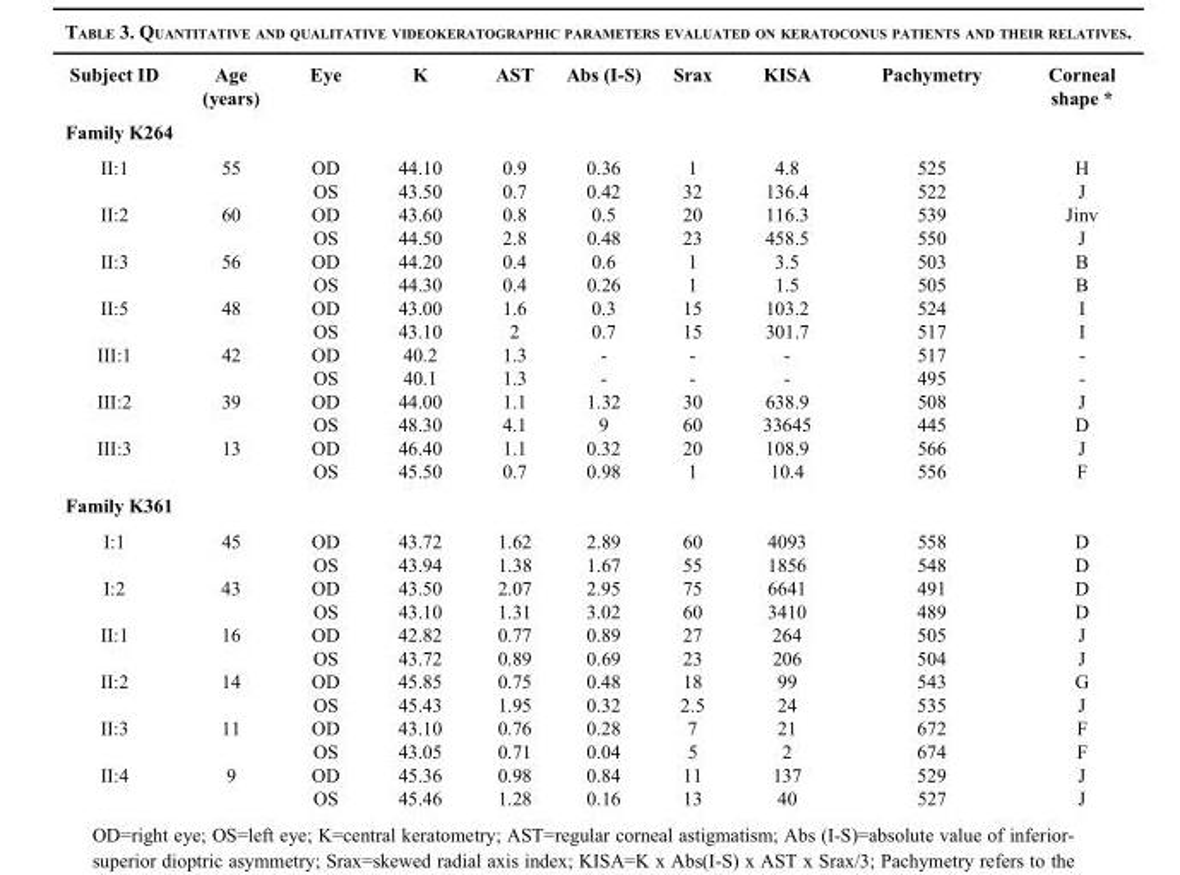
<table><thead><tr><td>Subject ID</td><td>Age (years)</td><td>Eye</td><td>K</td><td>AST</td><td>Abs (I-S)</td><td>Srax</td><td>KISA</td><td>Pachymetry</td><td>Corneal shape *</td></tr></thead><tbody><tr><td colspan="10">Family K264</td></tr><tr><td rowspan="2">II:1</td><td>55</td><td>OD</td><td>44.10</td><td>0.9</td><td>0.36</td><td>1</td><td>4.8</td><td>525</td><td>H</td></tr><tr><td></td><td>OS</td><td>43.50</td><td>0.7</td><td>0.42</td><td>32</td><td>136.4</td><td>522</td><td>J</td></tr><tr><td rowspan="2">II:2</td><td>60</td><td>OD</td><td>43.60</td><td>0.8</td><td>0.5</td><td>20</td><td>116.3</td><td>539</td><td>Jinv</td></tr><tr><td></td><td>OS</td><td>44.50</td><td>2.8</td><td>0.48</td><td>23</td><td>458.5</td><td>550</td><td>J</td></tr><tr><td rowspan="2">II:3</td><td>56</td><td>OD</td><td>44.20</td><td>0.4</td><td>0.6</td><td>1</td><td>3.5</td><td>503</td><td>B</td></tr><tr><td></td><td>OS</td><td>44.30</td><td>0.4</td><td>0.26</td><td>1</td><td>1.5</td><td>505</td><td>B</td></tr><tr><td rowspan="2">II:5</td><td>48</td><td>OD</td><td>43.00</td><td>1.6</td><td>0.3</td><td>15</td><td>103.2</td><td>524</td><td>I</td></tr><tr><td></td><td>OS</td><td>43.10</td><td>2</td><td>0.7</td><td>15</td><td>301.7</td><td>517</td><td>I</td></tr><tr><td rowspan="2">III:1</td><td>42</td><td>OD</td><td>40.2</td><td>1.3</td><td>-</td><td>-</td><td>-</td><td>517</td><td>-</td></tr><tr><td></td><td>OS</td><td>40.1</td><td>1.3</td><td>-</td><td>-</td><td>-</td><td>495</td><td>-</td></tr><tr><td rowspan="2">III:2</td><td>39</td><td>OD</td><td>44.00</td><td>1.1</td><td>1.32</td><td>30</td><td>638.9</td><td>508</td><td>J</td></tr><tr><td></td><td>OS</td><td>48.30</td><td>4.1</td><td>9</td><td>60</td><td>33645</td><td>445</td><td>D</td></tr><tr><td rowspan="2">III:3</td><td>13</td><td>OD</td><td>46.40</td><td>1.1</td><td>0.32</td><td>20</td><td>108.9</td><td>566</td><td>J</td></tr><tr><td></td><td>OS</td><td>45.50</td><td>0.7</td><td>0.98</td><td>1</td><td>10.4</td><td>556</td><td>F</td></tr><tr><td colspan="10">Family K361</td></tr><tr><td rowspan="2">I:1</td><td>45</td><td>OD</td><td>43.72</td><td>1.62</td><td>2.89</td><td>60</td><td>4093</td><td>558</td><td>D</td></tr><tr><td></td><td>OS</td><td>43.94</td><td>1.38</td><td>1.67</td><td>55</td><td>1856</td><td>548</td><td>D</td></tr><tr><td rowspan="2">I:2</td><td>43</td><td>OD</td><td>43.50</td><td>2.07</td><td>2.95</td><td>75</td><td>6641</td><td>491</td><td>D</td></tr><tr><td></td><td>OS</td><td>43.10</td><td>1.31</td><td>3.02</td><td>60</td><td>3410</td><td>489</td><td>D</td></tr><tr><td rowspan="2">II:1</td><td>16</td><td>OD</td><td>42.82</td><td>0.77</td><td>0.89</td><td>27</td><td>264</td><td>505</td><td>J</td></tr><tr><td></td><td>OS</td><td>43.72</td><td>0.89</td><td>0.69</td><td>23</td><td>206</td><td>504</td><td>J</td></tr><tr><td rowspan="2">II:2</td><td>14</td><td>OD</td><td>45.85</td><td>0.75</td><td>0.48</td><td>18</td><td>99</td><td>543</td><td>G</td></tr><tr><td></td><td>OS</td><td>45.43</td><td>1.95</td><td>0.32</td><td>2.5</td><td>24</td><td>535</td><td>J</td></tr><tr><td rowspan="2">II:3</td><td>11</td><td>OD</td><td>43.10</td><td>0.76</td><td>0.28</td><td>7</td><td>21</td><td>672</td><td>F</td></tr><tr><td></td><td>OS</td><td>43.05</td><td>0.71</td><td>0.04</td><td>5</td><td>2</td><td>674</td><td>F</td></tr><tr><td rowspan="2">II:4</td><td>9</td><td>OD</td><td>45.36</td><td>0.98</td><td>0.84</td><td>11</td><td>137</td><td>529</td><td>J</td></tr><tr><td></td><td>OS</td><td>45.46</td><td>1.28</td><td>0.16</td><td>13</td><td>40</td><td>527</td><td>J</td></tr></tbody></table>